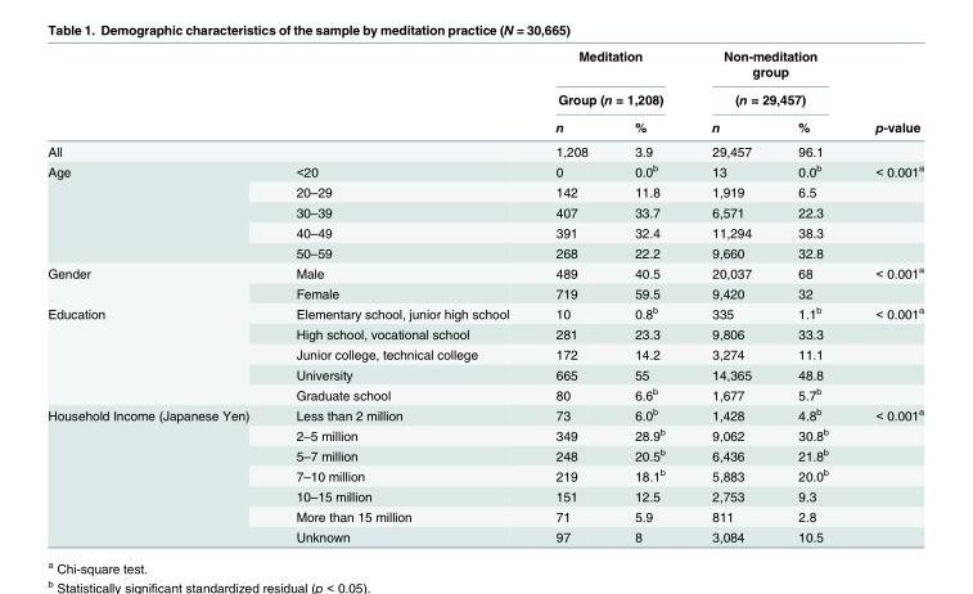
<table><thead><tr><td rowspan="3"></td><td rowspan="3"></td><td rowspan="2" colspan="2">Meditation Group (n = 1,208)</td><td rowspan="2" colspan="2">Non-meditation group (n = 29,457)</td><td rowspan="3">p-value</td></tr><tr></tr><tr><td>n</td><td>%</td><td>n</td><td>%</td></tr></thead><tbody><tr><td>All</td><td></td><td>1,208</td><td>3.9</td><td>29,457</td><td>96.1</td><td></td></tr><tr><td rowspan="5">Age</td><td>&lt;20</td><td>0</td><td>0.0<sup>b</sup></td><td>13</td><td>0.0<sup>b</sup></td><td>&lt; 0.001<sup>a</sup></td></tr><tr><td>20–29</td><td>142</td><td>11.8</td><td>1,919</td><td>6.5</td><td></td></tr><tr><td>30–39</td><td>407</td><td>33.7</td><td>6,571</td><td>22.3</td><td></td></tr><tr><td>40–49</td><td>391</td><td>32.4</td><td>11,294</td><td>38.3</td><td></td></tr><tr><td>50–59</td><td>268</td><td>22.2</td><td>9,660</td><td>32.8</td><td></td></tr><tr><td rowspan="2">Gender</td><td>Male</td><td>489</td><td>40.5</td><td>20,037</td><td>68</td><td>&lt; 0.001<sup>a</sup></td></tr><tr><td>Female</td><td>719</td><td>59.5</td><td>9,420</td><td>32</td><td></td></tr><tr><td rowspan="5">Education</td><td>Elementary school, junior high school</td><td>10</td><td>0.8<sup>b</sup></td><td>335</td><td>1.1<sup>b</sup></td><td>&lt; 0.001<sup>a</sup></td></tr><tr><td>High school, vocational school</td><td>281</td><td>23.3</td><td>9,806</td><td>33.3</td><td></td></tr><tr><td>Junior college, technical college</td><td>172</td><td>14.2</td><td>3,274</td><td>11.1</td><td></td></tr><tr><td>University</td><td>665</td><td>55</td><td>14,365</td><td>48.8</td><td></td></tr><tr><td>Graduate school</td><td>80</td><td>6.6<sup>b</sup></td><td>1,677</td><td>5.7<sup>b</sup></td><td></td></tr><tr><td rowspan="7">Household Income (Japanese Yen)</td><td>Less than 2 million</td><td>73</td><td>6.0<sup>b</sup></td><td>1,428</td><td>4.8<sup>b</sup></td><td>&lt; 0.001<sup>a</sup></td></tr><tr><td>2–5 million</td><td>349</td><td>28.9<sup>b</sup></td><td>9,062</td><td>30.8<sup>b</sup></td><td></td></tr><tr><td>5–7 million</td><td>248</td><td>20.5<sup>b</sup></td><td>6,436</td><td>21.8<sup>b</sup></td><td></td></tr><tr><td>7–10 million</td><td>219</td><td>18.1<sup>b</sup></td><td>5,883</td><td>20.0<sup>b</sup></td><td></td></tr><tr><td>10–15 million</td><td>151</td><td>12.5</td><td>2,753</td><td>9.3</td><td></td></tr><tr><td>More than 15 million</td><td>71</td><td>5.9</td><td>811</td><td>2.8</td><td></td></tr><tr><td>Unknown</td><td>97</td><td>8</td><td>3,084</td><td>10.5</td><td></td></tr></tbody></table>